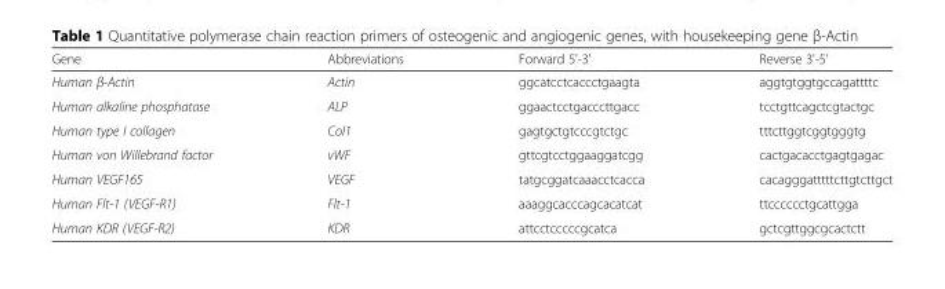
<table><thead><tr><td>Gene</td><td>Abbreviations</td><td>Forward 5&#x27;-3&#x27;</td><td>Reverse 3&#x27;-5’</td></tr></thead><tbody><tr><td>Human β-Actin</td><td>Actin</td><td>ggcatcctcaccctgaagta</td><td>aggtgtggtgccagattttc</td></tr><tr><td>Human alkaline phosphatase</td><td>ALP</td><td>ggaactcctgacccttgacc</td><td>tcctgttcagctcgtactgc</td></tr><tr><td>Human type I collagen</td><td>Col1</td><td>gagtgctgtcccgtctgc</td><td>tttcttggtcggtgggtg</td></tr><tr><td>Human von Willebrand factor</td><td>vWF</td><td>gttcgtcctggaaggatcgg</td><td>cactgacacctgagtgagac</td></tr><tr><td>Human VEGF165</td><td>VEGF</td><td>tatgcggatcaaacctcacca</td><td>cacagggatttttcttgtcttgct</td></tr><tr><td>Human Flt-1 (VEGF-R1)</td><td>Flt-1</td><td>aaaggcacccagcacatcat</td><td>ttcccccctgcattgga</td></tr><tr><td>Human KDR (VEGF-R2)</td><td>KDR</td><td>attcctcccccgcatca</td><td>gctcgttggcgcactctt</td></tr></tbody></table>